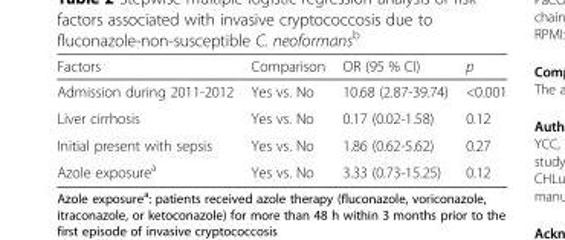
<table><thead><tr><td>Factors</td><td>Comparison</td><td>OR (95 % CI)</td><td>p</td></tr></thead><tbody><tr><td>Admission during 2011-2012</td><td>Yes vs. No</td><td>10.68 (2.87-39.74)</td><td>&lt;0.001</td></tr><tr><td>Liver cirrhosis</td><td>Yes vs. No</td><td>0.17 (0.02-1.58)</td><td>0.12</td></tr><tr><td>Initial present with sepsis</td><td>Yes vs. No</td><td>1.86 (0.62-5.62)</td><td>0.27</td></tr><tr><td>Azole exposure<sup>a</sup></td><td>Yes vs. No</td><td>3.33 (0.73-15.25)</td><td>0.12</td></tr></tbody></table>